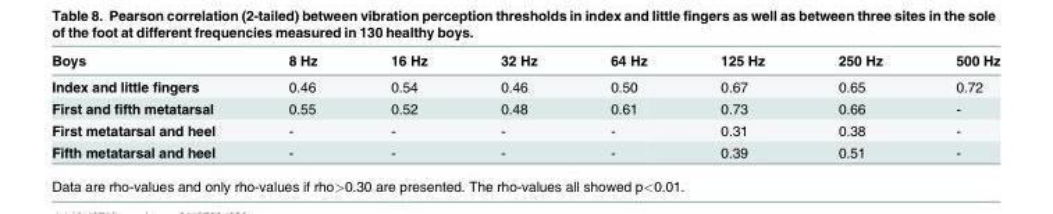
<table><thead><tr><td>Boys</td><td>8 Hz</td><td>16 Hz</td><td>32 Hz</td><td>64 Hz</td><td>125 Hz</td><td>250 Hz</td><td>500 Hz</td></tr></thead><tbody><tr><td>Index and little fingers</td><td>0.46</td><td>0.54</td><td>0.46</td><td>0.50</td><td>0.67</td><td>0.65</td><td>0.72</td></tr><tr><td>First and fifth metatarsal</td><td>0.55</td><td>0.52</td><td>0.48</td><td>0.61</td><td>0.73</td><td>0.66</td><td>-</td></tr><tr><td>First metatarsal and heel</td><td>-</td><td>-</td><td>-</td><td>-</td><td>0.31</td><td>0.38</td><td>-</td></tr><tr><td>Fifth metatarsal and heel</td><td>-</td><td>-</td><td>-</td><td>-</td><td>0.39</td><td>0.51</td><td>-</td></tr></tbody></table>